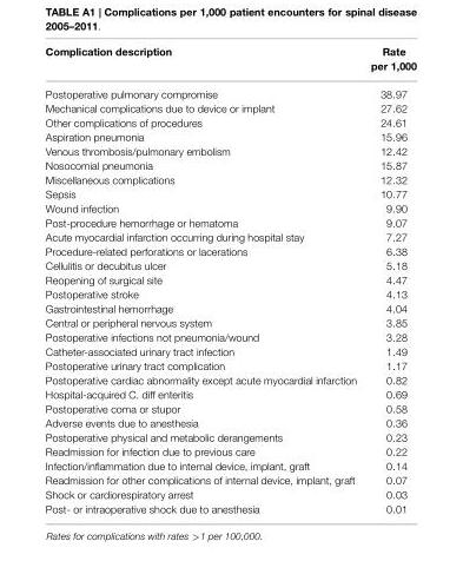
<table><thead><tr><td>Complication description</td><td>Rate per 1,000</td></tr></thead><tbody><tr><td>Postoperative pulmonary compromise</td><td>38.97</td></tr><tr><td>Mechanical complications due to device or implant</td><td>27.62</td></tr><tr><td>Other complications of procedures</td><td>24.61</td></tr><tr><td>Aspiration pneumonia</td><td>15.96</td></tr><tr><td>Venous thrombosis/pulmonary embolism</td><td>12.42</td></tr><tr><td>Nosocomial pneumonia</td><td>15.87</td></tr><tr><td>Miscellaneous complications</td><td>12.32</td></tr><tr><td>Sepsis</td><td>10.77</td></tr><tr><td>Wound infection</td><td>9.90</td></tr><tr><td>Post-procedure hemorrhage or hematoma</td><td>9.07</td></tr><tr><td>Acute myocardial infarction occurring during hospital stay</td><td>7.27</td></tr><tr><td>Procedure-related perforations or lacerations</td><td>6.38</td></tr><tr><td>Cellulitis or decubitus ulcer</td><td>5.18</td></tr><tr><td>Reopening of surgical site</td><td>4.47</td></tr><tr><td>Postoperative stroke</td><td>4.13</td></tr><tr><td>Gastrointestinal hemorrhage</td><td>4.04</td></tr><tr><td>Central or peripheral nervous system</td><td>3.85</td></tr><tr><td>Postoperative infections not pneumonia/wound</td><td>3.28</td></tr><tr><td>Catheter-associated urinary tract infection</td><td>1.49</td></tr><tr><td>Postoperative urinary tract complication</td><td>1.17</td></tr><tr><td>Postoperative cardiac abnormality except acute myocardial infarction</td><td>0.82</td></tr><tr><td>Hospital-acquired C. diff enteritis</td><td>0.69</td></tr><tr><td>Postoperative coma or stupor</td><td>0.58</td></tr><tr><td>Adverse events due to anesthesia</td><td>0.36</td></tr><tr><td>Postoperative physical and metabolic derangements</td><td>0.23</td></tr><tr><td>Readmission for infection due to previous care</td><td>0.22</td></tr><tr><td>Infection/inflammation due to internal device, implant, graft</td><td>0.14</td></tr><tr><td>Readmission for other complications of internal device, implant, graft</td><td>0.07</td></tr><tr><td>Shock or cardiorespiratory arrest</td><td>0.03</td></tr><tr><td>Post- or intraoperative shock due to anesthesia</td><td>0.01</td></tr></tbody></table>